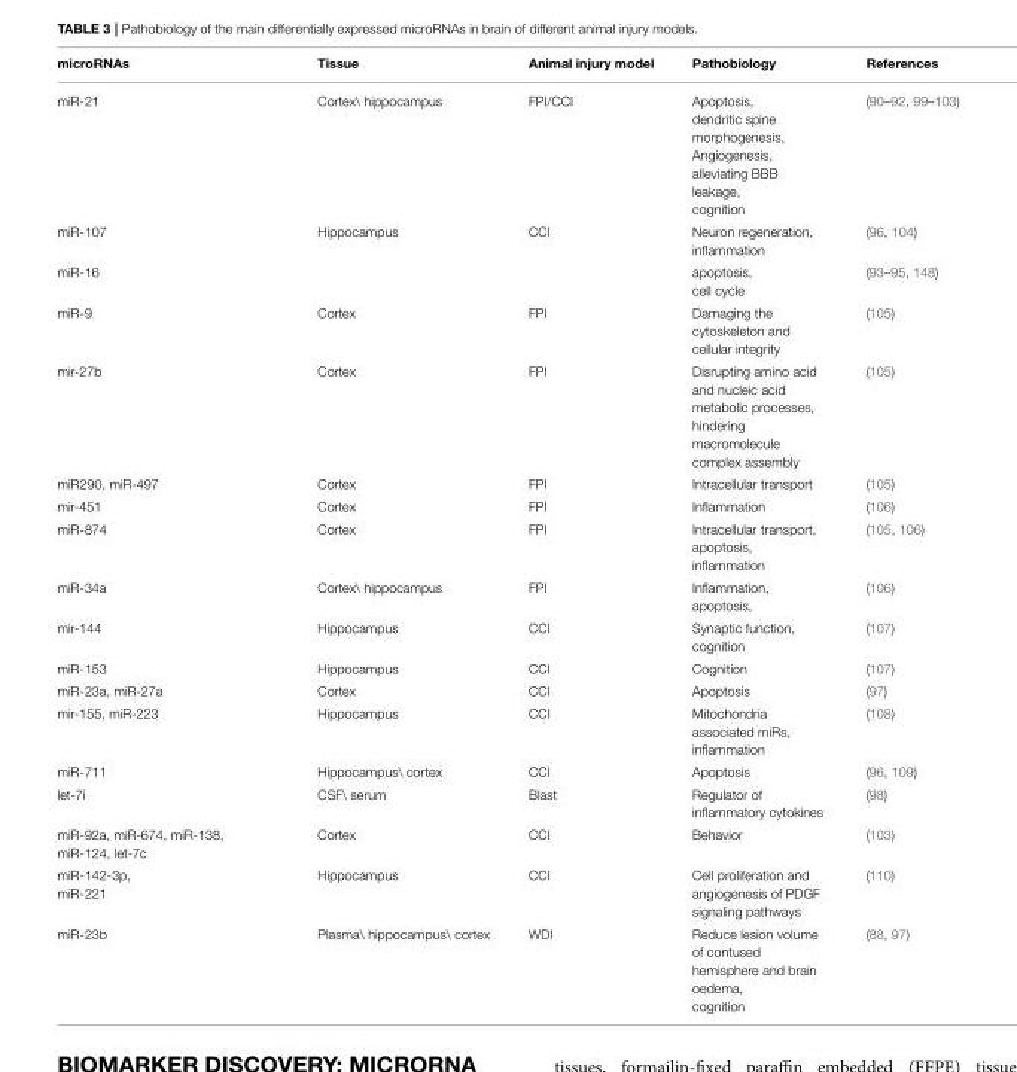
<table><thead><tr><td>microRNAs</td><td>Tissue</td><td>Animal injury model</td><td>Pathobiology</td><td>References</td></tr></thead><tbody><tr><td>miR-21</td><td>Cortex\ hippocampus</td><td>FPI/CCI</td><td>Apoptosis, dendritic spine morphogenesis, Angiogenesis, alleviating BBB leakage, cognition</td><td>(90–92, 99–103)</td></tr><tr><td>miR-107</td><td>Hippocampus</td><td>CCI</td><td>Neuron regeneration, inflammation</td><td>(96, 104)</td></tr><tr><td>miR-16</td><td></td><td></td><td>apoptosis, cell cycle</td><td>(93–95, 148)</td></tr><tr><td>miR-9</td><td>Cortex</td><td>FPI</td><td>Damaging the cytoskeleton and cellular integrity</td><td>(105)</td></tr><tr><td>mir-27b</td><td>Cortex</td><td>FPI</td><td>Disrupting amino acid and nucleic acid metabolic processes, hindering macromolecule complex assembly</td><td>(105)</td></tr><tr><td>miR290, miR-497</td><td>Cortex</td><td>FPI</td><td>Intracellular transport</td><td>(105)</td></tr><tr><td>mir-451</td><td>Cortex</td><td>FPI</td><td>Inflammation</td><td>(106)</td></tr><tr><td>miR-874</td><td>Cortex</td><td>FPI</td><td>Intracellular transport, apoptosis, inflammation</td><td>(105, 106)</td></tr><tr><td>miR-34a</td><td>Cortex\ hippocampus</td><td>FPI</td><td>Inflammation, apoptosis,</td><td>(106)</td></tr><tr><td>mir-144</td><td>Hippocampus</td><td>CCI</td><td>Synaptic function, cognition</td><td>(107)</td></tr><tr><td>miR-153</td><td>Hippocampus</td><td>CCI</td><td>Cognition</td><td>(107)</td></tr><tr><td>miR-23a, miR-27a</td><td>Cortex</td><td>CCI</td><td>Apoptosis</td><td>(97)</td></tr><tr><td>mir-155, miR-223</td><td>Hippocampus</td><td>CCI</td><td>Mitochondria associated miRs, inflammation</td><td>(108)</td></tr><tr><td>miR-711</td><td>Hippocampus\ cortex</td><td>CCI</td><td>Apoptosis</td><td>(96, 109)</td></tr><tr><td>let-7i</td><td>CSF\ serum</td><td>Blast</td><td>Regulator of inflammatory cytokines</td><td>(98)</td></tr><tr><td>miR-92a, miR-674, miR-138, miR-124, let-7c</td><td>Cortex</td><td>CCI</td><td>Behavior</td><td>(103)</td></tr><tr><td>miR-142-3p, miR-221</td><td>Hippocampus</td><td>CCI</td><td>Cell proliferation and angiogenesis of PDGF signaling pathways</td><td>(110)</td></tr><tr><td>miR-23b</td><td>Plasma\ hippocampus\ cortex</td><td>WDI</td><td>Reduce lesion volume of contused hemisphere and brain oedema, cognition</td><td>(88, 97)</td></tr></tbody></table>